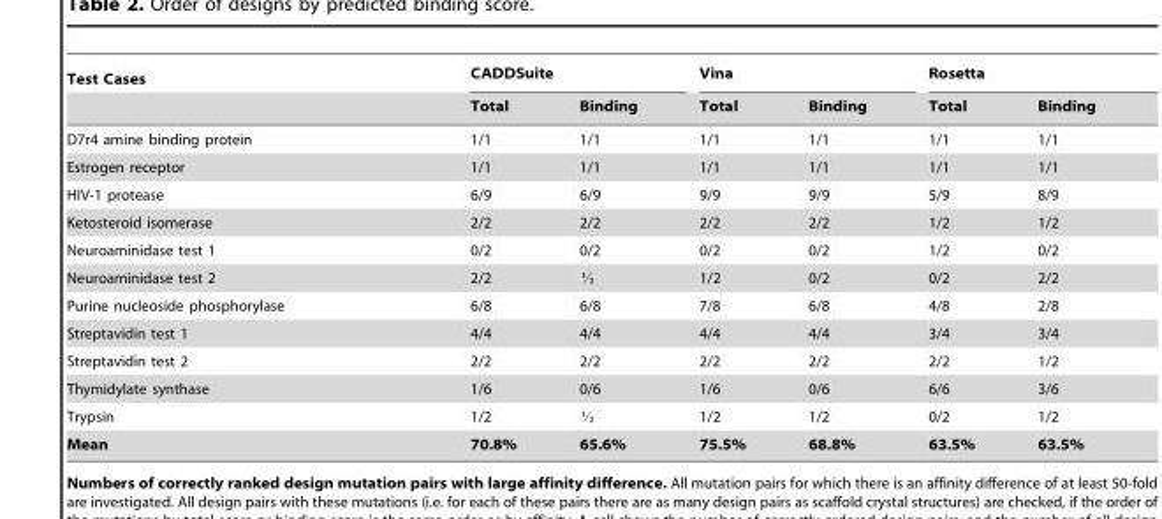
<table><thead><tr><td rowspan="2">Test Cases</td><td colspan="2">CADDSuite</td><td colspan="2">Vina</td><td colspan="2">Rosetta</td></tr><tr><td>Total</td><td>Binding</td><td>Total</td><td>Binding</td><td>Total</td><td>Binding</td></tr></thead><tbody><tr><td>D7r4 amine binding protein</td><td>1/1</td><td>1/1</td><td>1/1</td><td>1/1</td><td>1/1</td><td>1/1</td></tr><tr><td>Estrogen receptor</td><td>1/1</td><td>1/1</td><td>1/1</td><td>1/1</td><td>1/1</td><td>1/1</td></tr><tr><td>HIV-1 protease</td><td>6/9</td><td>6/9</td><td>9/9</td><td>9/9</td><td>5/9</td><td>8/9</td></tr><tr><td>Ketosteroid isomerase</td><td>2/2</td><td>2/2</td><td>2/2</td><td>2/2</td><td>1/2</td><td>1/2</td></tr><tr><td>Neuroaminidase test 1</td><td>0/2</td><td>0/2</td><td>0/2</td><td>0/2</td><td>1/2</td><td>0/2</td></tr><tr><td>Neuroaminidase test 2</td><td>2/2</td><td>K</td><td>1/2</td><td>0/2</td><td>0/2</td><td>2/2</td></tr><tr><td>Purine nucleoside phosphorylase</td><td>6/8</td><td>6/8</td><td>7/8</td><td>6/8</td><td>4/8</td><td>2/8</td></tr><tr><td>Streptavidin test 1</td><td>4/4</td><td>4/4</td><td>4/4</td><td>4/4</td><td>3/4</td><td>3/4</td></tr><tr><td>Streptavidin test 2</td><td>2/2</td><td>2/2</td><td>2/2</td><td>2/2</td><td>2/2</td><td>1/2</td></tr><tr><td>Thymidylate synthase</td><td>1/6</td><td>0/6</td><td>1/6</td><td>0/6</td><td>6/6</td><td>3/6</td></tr><tr><td>Trypsin</td><td>1/2</td><td>K</td><td>1/2</td><td>1/2</td><td>0/2</td><td>1/2</td></tr><tr><td>Mean</td><td>70.8%</td><td>65.6%</td><td>75.5%</td><td>68.8%</td><td>63.5%</td><td>63.5%</td></tr></tbody></table>